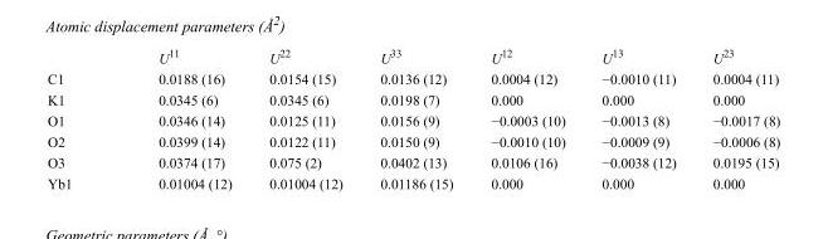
<table><thead><tr><td></td><td>U<sup>11</sup></td><td>U<sup>22</sup></td><td>U<sup>33</sup></td><td>U<sup>12</sup></td><td>U<sup>13</sup></td><td>U<sup>23</sup></td></tr></thead><tbody><tr><td>C1</td><td>0.0188 (16)</td><td>0.0154 (15)</td><td>0.0136 (12)</td><td>0.0004 (12)</td><td>−0.0010 (11)</td><td>0.0004 (11)</td></tr><tr><td>K1</td><td>0.0345 (6)</td><td>0.0345 (6)</td><td>0.0198 (7)</td><td>0.000</td><td>0.000</td><td>0.000</td></tr><tr><td>O1</td><td>0.0346 (14)</td><td>0.0125 (11)</td><td>0.0156 (9)</td><td>−0.0003 (10)</td><td>−0.0013 (8)</td><td>−0.0017 (8)</td></tr><tr><td>O2</td><td>0.0399 (14)</td><td>0.0122 (11)</td><td>0.0150 (9)</td><td>−0.0010 (10)</td><td>−0.0009 (9)</td><td>−0.0006 (8)</td></tr><tr><td>O3</td><td>0.0374 (17)</td><td>0.075 (2)</td><td>0.0402 (13)</td><td>0.0106 (16)</td><td>−0.0038 (12)</td><td>0.0195 (15)</td></tr><tr><td>Yb1</td><td>0.01004 (12)</td><td>0.01004 (12)</td><td>0.01186 (15)</td><td>0.000</td><td>0.000</td><td>0.000</td></tr></tbody></table>